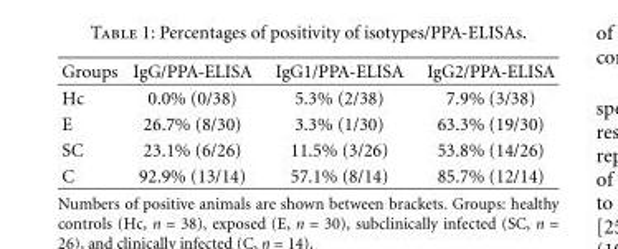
<table><thead><tr><td>Groups</td><td>IgG/PPA-ELISA</td><td>IgG1/PPA-ELISA</td><td>IgG2/PPA-ELISA</td></tr></thead><tbody><tr><td>Hc</td><td>0.0% (0/38)</td><td>5.3% (2/38)</td><td>7.9% (3/38)</td></tr><tr><td>E</td><td>26.7% (8/30)</td><td>3.3% (1/30)</td><td>63.3% (19/30)</td></tr><tr><td>SC</td><td>23.1% (6/26)</td><td>11.5% (3/26)</td><td>53.8% (14/26)</td></tr><tr><td>C</td><td>92.9% (13/14)</td><td>57.1% (8/14)</td><td>85.7% (12/14)</td></tr></tbody></table>